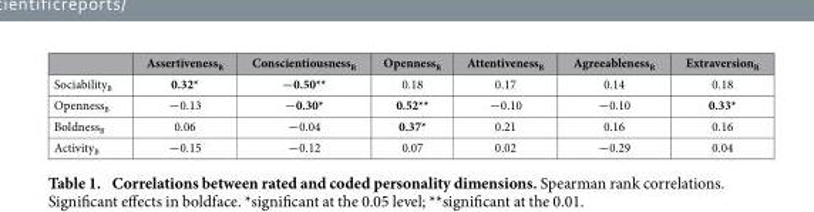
<table><thead><tr><td></td><td>Assertiveness<sub>R</sub></td><td>Conscientiousness<sub>R</sub></td><td>Openness<sub>R</sub></td><td>Attentiveness<sub>R</sub></td><td>Agreeableness<sub>R</sub></td><td>Extraversion<sub>R</sub></td></tr></thead><tbody><tr><td>Sociability<sub>B</sub></td><td>0.32*</td><td>−0.50**</td><td>0.18</td><td>0.17</td><td>0.14</td><td>0.18</td></tr><tr><td>Openness<sub>B</sub></td><td>−0.13</td><td>−0.30*</td><td>0.52**</td><td>−0.10</td><td>−0.10</td><td>0.33*</td></tr><tr><td>Boldness<sub>B</sub></td><td>0.06</td><td>−0.04</td><td>0.37*</td><td>0.21</td><td>0.16</td><td>0.16</td></tr><tr><td>Activity<sub>B</sub></td><td>−0.15</td><td>−0.12</td><td>0.07</td><td>0.02</td><td>−0.29</td><td>0.04</td></tr></tbody></table>